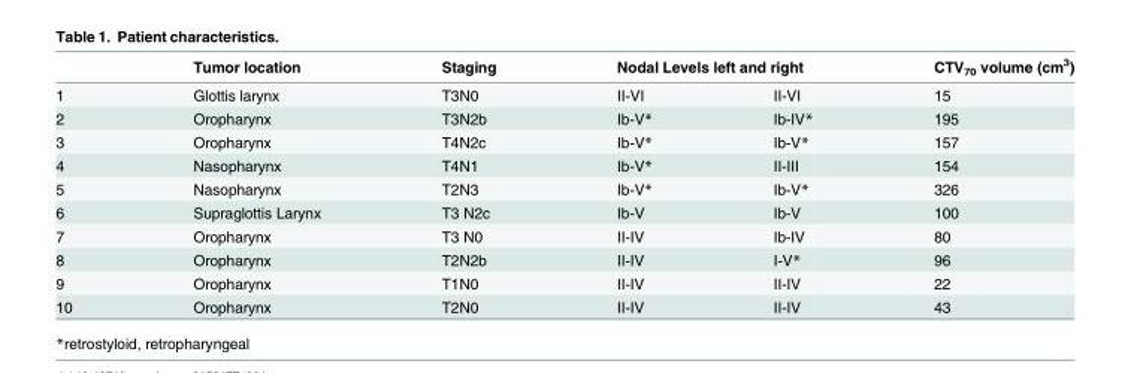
<table><thead><tr><td rowspan="2">1</td><td rowspan="2">Tumor location Glottis larynx</td><td rowspan="2">Staging T3N0</td><td colspan="2">Nodal Levels left and right</td><td rowspan="2">CTV<sub>70</sub> volume (cm<sup>3</sup>) 15</td></tr><tr><td>II-VI</td><td>II-VI</td></tr></thead><tbody><tr><td>2</td><td>Oropharynx</td><td>T3N2b</td><td>Ib-V*</td><td>Ib-IV*</td><td>195</td></tr><tr><td>3</td><td>Oropharynx</td><td>T4N2c</td><td>Ib-V*</td><td>Ib-V*</td><td>157</td></tr><tr><td>4</td><td>Nasopharynx</td><td>T4N1</td><td>Ib-V*</td><td>II-III</td><td>154</td></tr><tr><td>5</td><td>Nasopharynx</td><td>T2N3</td><td>Ib-V*</td><td>Ib-V*</td><td>326</td></tr><tr><td>6</td><td>Supraglottis Larynx</td><td>T3 N2c</td><td>Ib-V</td><td>Ib-V</td><td>100</td></tr><tr><td>7</td><td>Oropharynx</td><td>T3 N0</td><td>II-IV</td><td>Ib-IV</td><td>80</td></tr><tr><td>8</td><td>Oropharynx</td><td>T2N2b</td><td>II-IV</td><td>I-V*</td><td>96</td></tr><tr><td>9</td><td>Oropharynx</td><td>T1N0</td><td>II-IV</td><td>II-IV</td><td>22</td></tr><tr><td>10</td><td>Oropharynx</td><td>T2N0</td><td>II-IV</td><td>II-IV</td><td>43</td></tr></tbody></table>